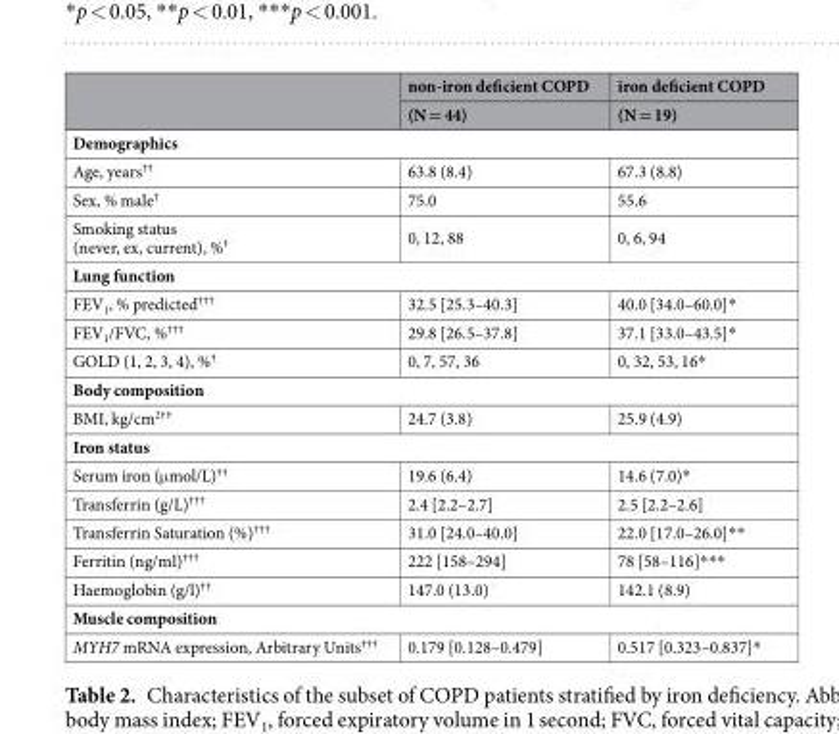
<table><thead><tr><td rowspan="2"></td><td rowspan="2">non-iron deficient COPD (N = 44)</td><td rowspan="2">iron deficient COPD (N = 19)</td></tr><tr></tr></thead><tbody><tr><td colspan="3">Demographics</td></tr><tr><td>Age, years<sup>††</sup></td><td>63.8 (8.4)</td><td>67.3 (8.8)</td></tr><tr><td>Sex, % male<sup>†</sup></td><td>75.0</td><td>55.6</td></tr><tr><td>Smoking status (never, ex, current), %<sup>†</sup></td><td>0, 12, 88</td><td>0, 6, 94</td></tr><tr><td colspan="3">Lung function</td></tr><tr><td>FEV<sub>1</sub>, % predicted<sup>†††</sup></td><td>32.5 [25.3–40.3]</td><td>40.0 [34.0–60.0]*</td></tr><tr><td>FEV<sub>1</sub>/FVC, %<sup>†††</sup></td><td>29.8 [26.5–37.8]</td><td>37.1 [33.0–43.5]*</td></tr><tr><td>GOLD (1, 2, 3, 4), %<sup>†</sup></td><td>0, 7, 57, 36</td><td>0, 32, 53, 16*</td></tr><tr><td colspan="3">Body composition</td></tr><tr><td>BMI, kg/cm<sup>2††</sup></td><td>24.7 (3.8)</td><td>25.9 (4.9)</td></tr><tr><td colspan="3">Iron status</td></tr><tr><td>Serum iron (μmol/L)<sup>††</sup></td><td>19.6 (6.4)</td><td>14.6 (7.0)*</td></tr><tr><td>Transferrin (g/L)<sup>†††</sup></td><td>2.4 [2.2–2.7]</td><td>2.5 [2.2–2.6]</td></tr><tr><td>Transferrin Saturation (%)<sup>†††</sup></td><td>31.0 [24.0–40.0]</td><td>22.0 [17.0–26.0]**</td></tr><tr><td>Ferritin (ng/ml)<sup>†††</sup></td><td>222 [158–294]</td><td>78 [58–116]***</td></tr><tr><td>Haemoglobin (g/l)<sup>††</sup></td><td>147.0 (13.0)</td><td>142.1 (8.9)</td></tr><tr><td colspan="3">Muscle composition</td></tr><tr><td>MYH7 mRNA expression, Arbitrary Units<sup>†††</sup></td><td>0.179 [0.128–0.479]</td><td>0.517 [0.323–0.837]*</td></tr></tbody></table>